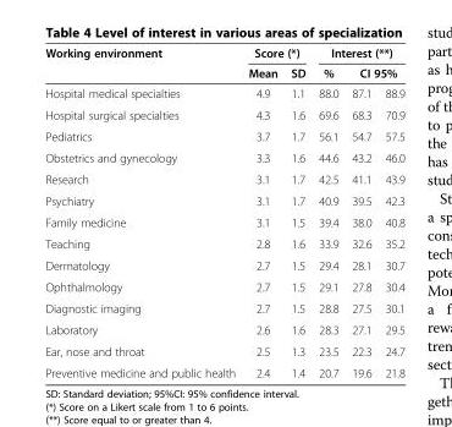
<table><thead><tr><td rowspan="3">Working environment Hospital medical specialties</td><td colspan="2">Score (*)</td><td colspan="3">Interest (**)</td></tr><tr><td rowspan="2">Mean 4.9</td><td rowspan="2">SD 1.1</td><td rowspan="2">% 88.0</td><td colspan="2">CI 95%</td></tr><tr><td>87.1</td><td>88.9</td></tr></thead><tbody><tr><td>Hospital surgical specialties</td><td>4.3</td><td>1.6</td><td>69.6</td><td>68.3</td><td>70.9</td></tr><tr><td>Pediatrics</td><td>3.7</td><td>1.7</td><td>56.1</td><td>54.7</td><td>57.5</td></tr><tr><td>Obstetrics and gynecology</td><td>3.3</td><td>1.6</td><td>44.6</td><td>43.2</td><td>46.0</td></tr><tr><td>Research</td><td>3.1</td><td>1.7</td><td>42.5</td><td>41.1</td><td>43.9</td></tr><tr><td>Psychiatry</td><td>3.1</td><td>1.7</td><td>40.9</td><td>39.5</td><td>42.3</td></tr><tr><td>Family medicine</td><td>3.1</td><td>1.5</td><td>39.4</td><td>38.0</td><td>40.8</td></tr><tr><td>Teaching</td><td>2.8</td><td>1.6</td><td>33.9</td><td>32.6</td><td>35.2</td></tr><tr><td>Dermatology</td><td>2.7</td><td>1.5</td><td>29.4</td><td>28.1</td><td>30.7</td></tr><tr><td>Ophthalmology</td><td>2.7</td><td>1.5</td><td>29.1</td><td>27.8</td><td>30.4</td></tr><tr><td>Diagnostic imaging</td><td>2.7</td><td>1.5</td><td>28.8</td><td>27.5</td><td>30.1</td></tr><tr><td>Laboratory</td><td>2.6</td><td>1.6</td><td>28.3</td><td>27.1</td><td>29.5</td></tr><tr><td>Ear, nose and throat</td><td>2.5</td><td>1.3</td><td>23.5</td><td>22.3</td><td>24.7</td></tr><tr><td>Preventive medicine and public health</td><td>2.4</td><td>1.4</td><td>20.7</td><td>19.6</td><td>21.8</td></tr></tbody></table>